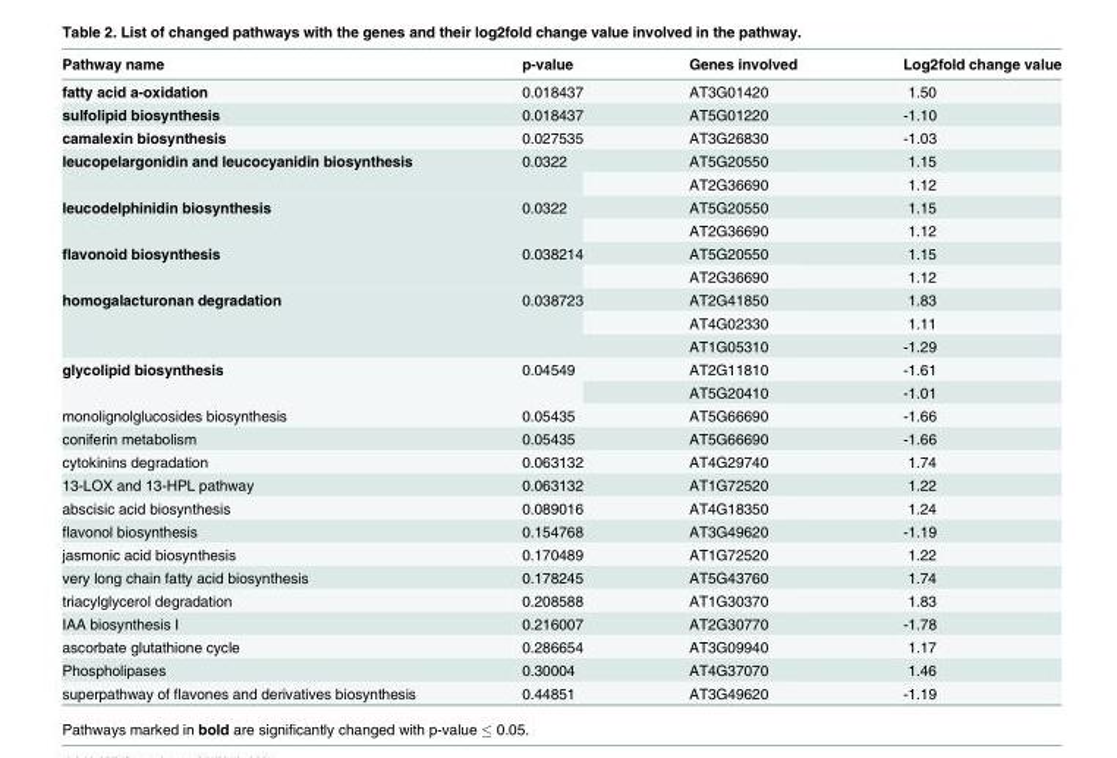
<table><thead><tr><td>Pathway name</td><td>p-value</td><td>Genes involved</td><td>Log2fold change value</td></tr></thead><tbody><tr><td>fatty acid a-oxidation</td><td>0.018437</td><td>AT3G01420</td><td>1.50</td></tr><tr><td>sulfolipid biosynthesis</td><td>0.018437</td><td>AT5G01220</td><td>-1.10</td></tr><tr><td>camalexin biosynthesis</td><td>0.027535</td><td>AT3G26830</td><td>-1.03</td></tr><tr><td rowspan="2">leucopelargonidin and leucocyanidin biosynthesis</td><td rowspan="2">0.0322</td><td>AT5G20550</td><td>1.15</td></tr><tr><td>AT2G36690</td><td>1.12</td></tr><tr><td rowspan="2">leucodelphinidin biosynthesis</td><td rowspan="2">0.0322</td><td>AT5G20550</td><td>1.15</td></tr><tr><td>AT2G36690</td><td>1.12</td></tr><tr><td rowspan="2">flavonoid biosynthesis</td><td rowspan="2">0.038214</td><td>AT5G20550</td><td>1.15</td></tr><tr><td>AT2G36690</td><td>1.12</td></tr><tr><td rowspan="3">homogalacturonan degradation</td><td rowspan="3">0.038723</td><td>AT2G41850</td><td>1.83</td></tr><tr><td>AT4G02330</td><td>1.11</td></tr><tr><td>AT1G05310</td><td>-1.29</td></tr><tr><td rowspan="2">glycolipid biosynthesis</td><td rowspan="2">0.04549</td><td>AT2G11810</td><td>-1.61</td></tr><tr><td>AT5G20410</td><td>-1.01</td></tr><tr><td>monolignolglucosides biosynthesis</td><td>0.05435</td><td>AT5G66690</td><td>-1.66</td></tr><tr><td>coniferin metabolism</td><td>0.05435</td><td>AT5G66690</td><td>-1.66</td></tr><tr><td>cytokinins degradation</td><td>0.063132</td><td>AT4G29740</td><td>1.74</td></tr><tr><td>13-LOX and 13-HPL pathway</td><td>0.063132</td><td>AT1G72520</td><td>1.22</td></tr><tr><td>abscisic acid biosynthesis</td><td>0.089016</td><td>AT4G18350</td><td>1.24</td></tr><tr><td>flavonol biosynthesis</td><td>0.154768</td><td>AT3G49620</td><td>-1.19</td></tr><tr><td>jasmonic acid biosynthesis</td><td>0.170489</td><td>AT1G72520</td><td>1.22</td></tr><tr><td>very long chain fatty acid biosynthesis</td><td>0.178245</td><td>AT5G43760</td><td>1.74</td></tr><tr><td>triacylglycerol degradation</td><td>0.208588</td><td>AT1G30370</td><td>1.83</td></tr><tr><td>IAA biosynthesis I</td><td>0.216007</td><td>AT2G30770</td><td>-1.78</td></tr><tr><td>ascorbate glutathione cycle</td><td>0.286654</td><td>AT3G09940</td><td>1.17</td></tr><tr><td>Phospholipases</td><td>0.30004</td><td>AT4G37070</td><td>1.46</td></tr><tr><td>superpathway of flavones and derivatives biosynthesis</td><td>0.44851</td><td>AT3G49620</td><td>-1.19</td></tr></tbody></table>